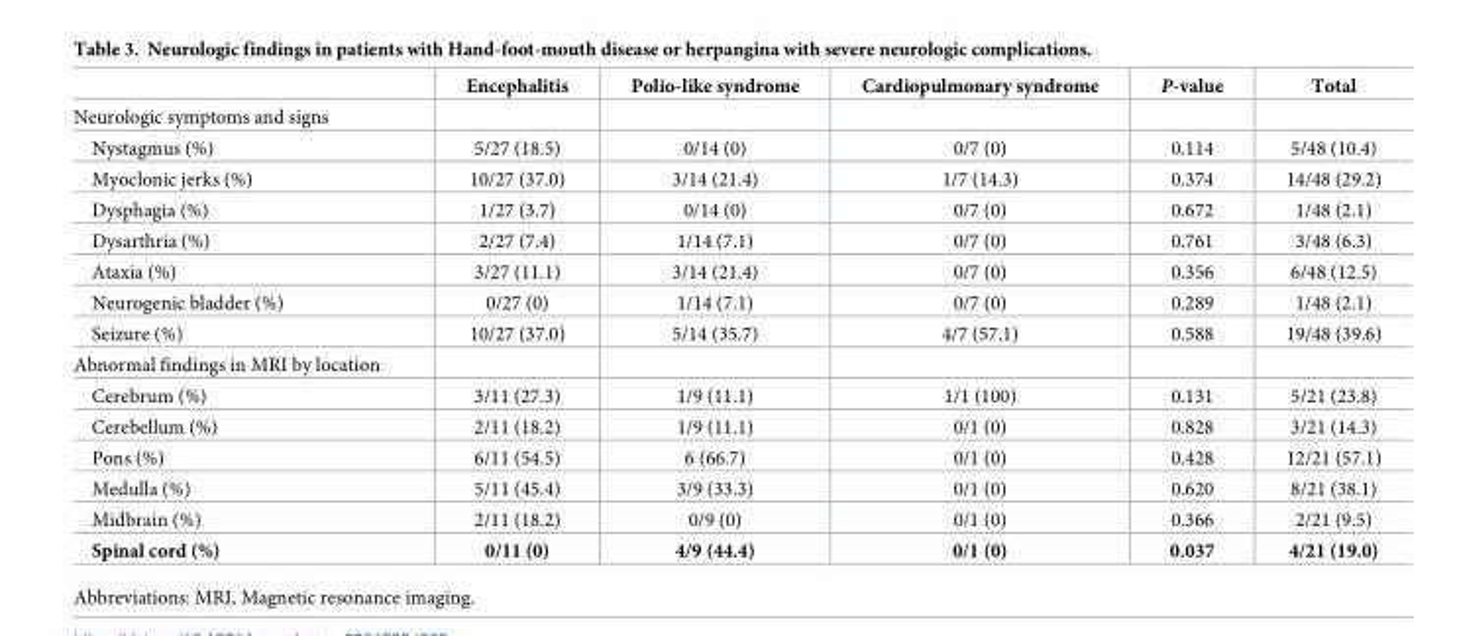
<table><thead><tr><td></td><td>Encephalitis</td><td>Polio-like syndrome</td><td>Cardiopulmonary syndrome</td><td>P-value</td><td>Total</td></tr></thead><tbody><tr><td colspan="6">Neurologic symptoms and signs</td></tr><tr><td>Nystagmus (%)</td><td>5/27 (18.5)</td><td>0/14 (0)</td><td>0/7 (0)</td><td>0.114</td><td>5/48 (10.4)</td></tr><tr><td>Myoclonic jerks (%)</td><td>10/27 (37.0)</td><td>3/14 (21.4)</td><td>1/7 (14.3)</td><td>0.374</td><td>14/48 (29.2)</td></tr><tr><td>Dysphagia (%)</td><td>1/27 (3.7)</td><td>0/14 (0)</td><td>0/7 (0)</td><td>0.672</td><td>1/48 (2.1)</td></tr><tr><td>Dysarthria (%)</td><td>2/27 (7.4)</td><td>1/14 (7.1)</td><td>0/7 (0)</td><td>0.761</td><td>3/48 (6.3)</td></tr><tr><td>Ataxia (%)</td><td>3/27 (11.1)</td><td>3/14 (21.4)</td><td>0/7 (0)</td><td>0.356</td><td>6/48 (12.5)</td></tr><tr><td>Neurogenic bladder (%)</td><td>0/27 (0)</td><td>1/14 (7.1)</td><td>0/7 (0)</td><td>0.289</td><td>1/48 (2.1)</td></tr><tr><td>Seizure (%)</td><td>10/27 (37.0)</td><td>5/14 (35.7)</td><td>4/7 (57.1)</td><td>0.588</td><td>19/48 (39.6)</td></tr><tr><td colspan="6">Abnormal findings in MRI by location</td></tr><tr><td>Cerebrum (%)</td><td>3/11 (27.3)</td><td>1/9 (11.1)</td><td>1/1 (100)</td><td>0.131</td><td>5/21 (23.8)</td></tr><tr><td>Cerebellum (%)</td><td>2/11 (18.2)</td><td>1/9 (11.1)</td><td>0/1 (0)</td><td>0.828</td><td>3/21 (14.3)</td></tr><tr><td>Pons (%)</td><td>6/11 (54.5)</td><td>6 (66.7)</td><td>0/1 (0)</td><td>0.428</td><td>12/21 (57.1)</td></tr><tr><td>Medulla (%)</td><td>5/11 (45.4)</td><td>3/9 (33.3)</td><td>0/1 (0)</td><td>0.620</td><td>8/21 (38.1)</td></tr><tr><td>Midbrain (%)</td><td>2/11 (18.2)</td><td>0/9 (0)</td><td>0/1 (0)</td><td>0.366</td><td>2/21 (9.5)</td></tr><tr><td>Spinal cord (%)</td><td>0/11 (0)</td><td>4/9 (44.4)</td><td>0/1 (0)</td><td>0.037</td><td>4/21 (19.0)</td></tr></tbody></table>